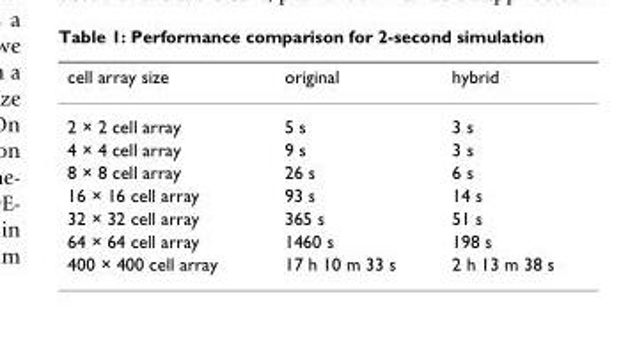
<table><thead><tr><td>cell array size</td><td>original</td><td>hybrid</td></tr></thead><tbody><tr><td>2 × 2 cell array</td><td>5 s</td><td>3 s</td></tr><tr><td>4 × 4 cell array</td><td>9 s</td><td>3 s</td></tr><tr><td>8 × 8 cell array</td><td>26 s</td><td>6 s</td></tr><tr><td>16 × 16 cell array</td><td>93 s</td><td>14 s</td></tr><tr><td>32 × 32 cell array</td><td>365 s</td><td>51 s</td></tr><tr><td>64 × 64 cell array</td><td>1460 s</td><td>198 s</td></tr><tr><td>400 × 400 cell array</td><td>17 h 10 m 33 s</td><td>2 h 13 m 38 s</td></tr></tbody></table>